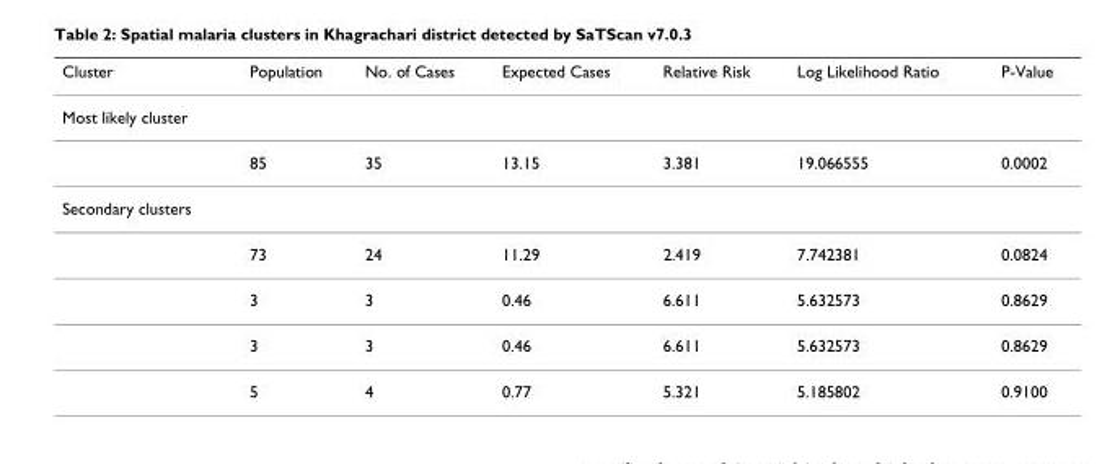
<table><thead><tr><td>Cluster</td><td>Population</td><td>No. of Cases</td><td>Expected Cases</td><td>Relative Risk</td><td>Log Likelihood Ratio</td><td>P-Value</td></tr></thead><tbody><tr><td colspan="7">Most likely cluster</td></tr><tr><td></td><td>85</td><td>35</td><td>13.15</td><td>3.381</td><td>19.066555</td><td>0.0002</td></tr><tr><td colspan="7">Secondary clusters</td></tr><tr><td></td><td>73</td><td>24</td><td>11.29</td><td>2.419</td><td>7.742381</td><td>0.0824</td></tr><tr><td></td><td>3</td><td>3</td><td>0.46</td><td>6.611</td><td>5.632573</td><td>0.8629</td></tr><tr><td></td><td>3</td><td>3</td><td>0.46</td><td>6.611</td><td>5.632573</td><td>0.8629</td></tr><tr><td></td><td>5</td><td>4</td><td>0.77</td><td>5.321</td><td>5.185802</td><td>0.9100</td></tr></tbody></table>